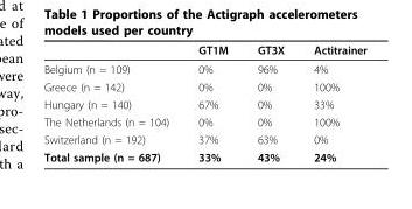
<table><thead><tr><td></td><td>GT1M</td><td>GT3X</td><td>Actitrainer</td></tr></thead><tbody><tr><td>Belgium (n = 109)</td><td>0%</td><td>96%</td><td>4%</td></tr><tr><td>Greece (n = 142)</td><td>0%</td><td>0%</td><td>100%</td></tr><tr><td>Hungary (n = 140)</td><td>67%</td><td>0%</td><td>33%</td></tr><tr><td>The Netherlands (n = 104)</td><td>0%</td><td>0%</td><td>100%</td></tr><tr><td>Switzerland (n = 192)</td><td>37%</td><td>63%</td><td>0%</td></tr><tr><td>Total sample (n = 687)</td><td>33%</td><td>43%</td><td>24%</td></tr></tbody></table>